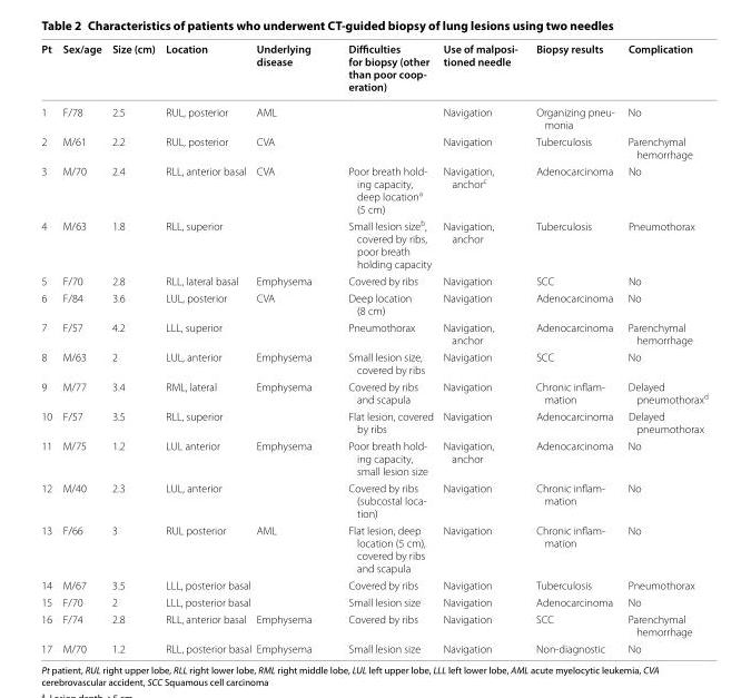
<table><thead><tr><td>Pt</td><td>Sex/age</td><td>Size (cm)</td><td>Location</td><td>Underlying disease</td><td>Difficulties for biopsy (other than poor coop‑ eration)</td><td>Use of malposi‑ tioned needle</td><td>Biopsy results</td><td>Complication</td></tr></thead><tbody><tr><td>1</td><td>F/78</td><td>2.5</td><td>RUL, posterior</td><td>AML</td><td></td><td>Navigation</td><td>Organizing pneu- monia</td><td>No</td></tr><tr><td>2</td><td>M/61</td><td>2.2</td><td>RUL, posterior</td><td>CVA</td><td></td><td>Navigation</td><td>Tuberculosis</td><td>Parenchymal hemorrhage</td></tr><tr><td>3</td><td>M/70</td><td>2.4</td><td>RLL, anterior basal</td><td>CVA</td><td>Poor breath hold- ing capacity, deep locationa (5 cm)</td><td>Navigation, anchor<sup>c</sup></td><td>Adenocarcinoma</td><td>No</td></tr><tr><td>4</td><td>M/63</td><td>1.8</td><td>RLL, superior</td><td></td><td>Small lesion size<sup>b</sup>, covered by ribs, poor breath holding capacity</td><td>Navigation, anchor</td><td>Tuberculosis</td><td>Pneumothorax</td></tr><tr><td>5</td><td>F/70</td><td>2.8</td><td>RLL, lateral basal</td><td>Emphysema</td><td>Covered by ribs</td><td>Navigation</td><td>SCC</td><td>No</td></tr><tr><td>6</td><td>F/84</td><td>3.6</td><td>LUL, posterior</td><td>CVA</td><td>Deep location (8 cm)</td><td>Navigation</td><td>Adenocarcinoma</td><td>No</td></tr><tr><td>7</td><td>F/57</td><td>4.2</td><td>LLL, superior</td><td></td><td>Pneumothorax</td><td>Navigation, anchor</td><td>Adenocarcinoma</td><td>Parenchymal hemorrhage</td></tr><tr><td>8</td><td>M/63</td><td>2</td><td>LUL, anterior</td><td>Emphysema</td><td>Small lesion size, covered by ribs</td><td>Navigation</td><td>SCC</td><td>No</td></tr><tr><td>9</td><td>M/77</td><td>3.4</td><td>RML, lateral</td><td>Emphysema</td><td>Covered by ribs and scapula</td><td>Navigation</td><td>Chronic inflam- mation</td><td>Delayed pneumothorax<sup>d</sup></td></tr><tr><td>10</td><td>F/57</td><td>3.5</td><td>RLL, superior</td><td></td><td>Flat lesion, covered by ribs</td><td>Navigation</td><td>Adenocarcinoma</td><td>Delayed pneumothorax</td></tr><tr><td>11</td><td>M/75</td><td>1.2</td><td>LUL anterior</td><td>Emphysema</td><td>Poor breath hold- ing capacity, small lesion size</td><td>Navigation, anchor</td><td>Adenocarcinoma</td><td>No</td></tr><tr><td>12</td><td>M/40</td><td>2.3</td><td>LUL, anterior</td><td></td><td>Covered by ribs (subcostal loca- tion)</td><td>Navigation</td><td>Chronic inflam- mation</td><td>No</td></tr><tr><td>13</td><td>F/66</td><td>3</td><td>RUL posterior</td><td>AML</td><td>Flat lesion, deep location (5 cm), covered by ribs and scapula</td><td>Navigation</td><td>Chronic inflam- mation</td><td>No</td></tr><tr><td>14</td><td>M/67</td><td>3.5</td><td>LLL, posterior basal</td><td></td><td>Covered by ribs</td><td>Navigation</td><td>Tuberculosis</td><td>Pneumothorax</td></tr><tr><td>15</td><td>F/70</td><td>2</td><td>LLL, posterior basal</td><td></td><td>Small lesion size</td><td>Navigation</td><td>Adenocarcinoma</td><td>No</td></tr><tr><td>16</td><td>F/74</td><td>2.8</td><td>RLL, anterior basal</td><td>Emphysema</td><td>Covered by ribs</td><td>Navigation</td><td>SCC</td><td>Parenchymal hemorrhage</td></tr><tr><td>17</td><td>M/70</td><td>1.2</td><td>RLL, posterior basal</td><td>Emphysema</td><td>Small lesion size</td><td>Navigation</td><td>Non-diagnostic</td><td>No</td></tr></tbody></table>